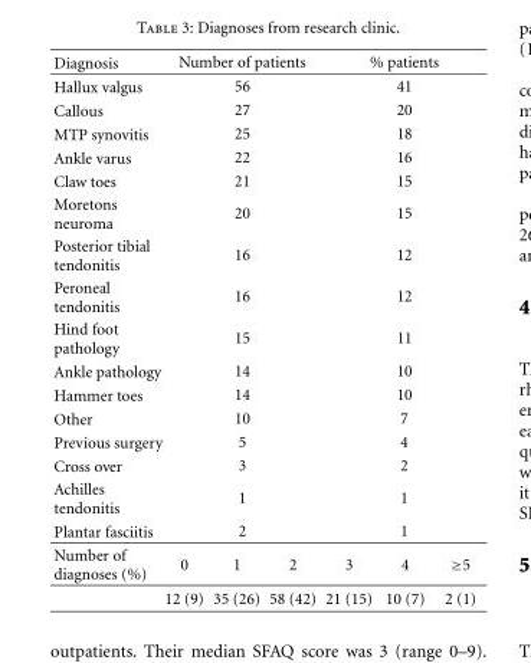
<table><thead><tr><td>Diagnosis</td><td colspan="3">Number of patients</td><td colspan="3">% patients</td></tr></thead><tbody><tr><td>Hallux valgus</td><td colspan="3">56</td><td colspan="3">41</td></tr><tr><td>Callous</td><td colspan="3">27</td><td colspan="3">20</td></tr><tr><td>MTP synovitis</td><td colspan="3">25</td><td colspan="3">18</td></tr><tr><td>Ankle varus</td><td colspan="3">22</td><td colspan="3">16</td></tr><tr><td>Claw toes</td><td colspan="3">21</td><td colspan="3">15</td></tr><tr><td>Moretons neuroma</td><td colspan="3">20</td><td colspan="3">15</td></tr><tr><td>Posterior tibial tendonitis</td><td colspan="3">16</td><td colspan="3">12</td></tr><tr><td>Peroneal tendonitis</td><td colspan="3">16</td><td colspan="3">12</td></tr><tr><td>Hind foot pathology</td><td colspan="3">15</td><td colspan="3">11</td></tr><tr><td>Ankle pathology</td><td colspan="3">14</td><td colspan="3">10</td></tr><tr><td>Hammer toes</td><td colspan="3">14</td><td colspan="3">10</td></tr><tr><td>Other</td><td colspan="3">10</td><td colspan="3">7</td></tr><tr><td>Previous surgery</td><td colspan="3">5</td><td colspan="3">4</td></tr><tr><td>Cross over</td><td colspan="3">3</td><td colspan="3">2</td></tr><tr><td>Achilles tendonitis</td><td colspan="3">1</td><td colspan="3">1</td></tr><tr><td>Plantar fasciitis</td><td colspan="3">2</td><td colspan="3">1</td></tr><tr><td rowspan="2">Number of diagnoses (%)</td><td>0</td><td>1</td><td>2</td><td>3</td><td>4</td><td>≥5</td></tr><tr><td>12 (9)</td><td>35 (26)</td><td>58 (42)</td><td>21 (15)</td><td>10 (7)</td><td>2 (1)</td></tr></tbody></table>